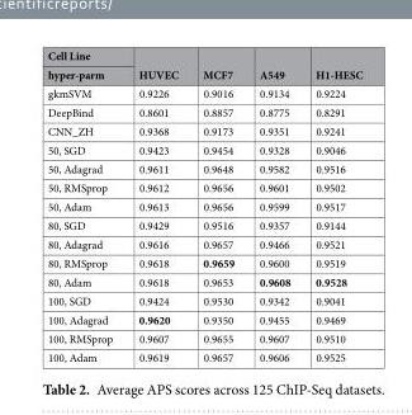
<table><thead><tr><td rowspan="2">Cell Line hyper-parm</td><td rowspan="2">HUVEC</td><td rowspan="2">MCF7</td><td rowspan="2">A549</td><td rowspan="2">H1-HESC</td></tr><tr></tr></thead><tbody><tr><td>gkmSVM</td><td>0.9226</td><td>0.9016</td><td>0.9134</td><td>0.9224</td></tr><tr><td>DeepBind</td><td>0.8601</td><td>0.8857</td><td>0.8775</td><td>0.8291</td></tr><tr><td>CNN_ZH</td><td>0.9368</td><td>0.9173</td><td>0.9351</td><td>0.9241</td></tr><tr><td>50, SGD</td><td>0.9423</td><td>0.9454</td><td>0.9328</td><td>0.9046</td></tr><tr><td>50, Adagrad</td><td>0.9611</td><td>0.9648</td><td>0.9582</td><td>0.9516</td></tr><tr><td>50, RMSprop</td><td>0.9612</td><td>0.9656</td><td>0.9601</td><td>0.9502</td></tr><tr><td>50, Adam</td><td>0.9613</td><td>0.9656</td><td>0.9599</td><td>0.9517</td></tr><tr><td>80, SGD</td><td>0.9429</td><td>0.9516</td><td>0.9357</td><td>0.9144</td></tr><tr><td>80, Adagrad</td><td>0.9616</td><td>0.9657</td><td>0.9466</td><td>0.9521</td></tr><tr><td>80, RMSprop</td><td>0.9618</td><td>0.9659</td><td>0.9600</td><td>0.9519</td></tr><tr><td>80, Adam</td><td>0.9618</td><td>0.9653</td><td>0.9608</td><td>0.9528</td></tr><tr><td>100, SGD</td><td>0.9424</td><td>0.9530</td><td>0.9342</td><td>0.9041</td></tr><tr><td>100, Adagrad</td><td>0.9620</td><td>0.9350</td><td>0.9455</td><td>0.9469</td></tr><tr><td>100, RMSprop</td><td>0.9607</td><td>0.9655</td><td>0.9607</td><td>0.9510</td></tr><tr><td>100, Adam</td><td>0.9619</td><td>0.9657</td><td>0.9606</td><td>0.9525</td></tr></tbody></table>